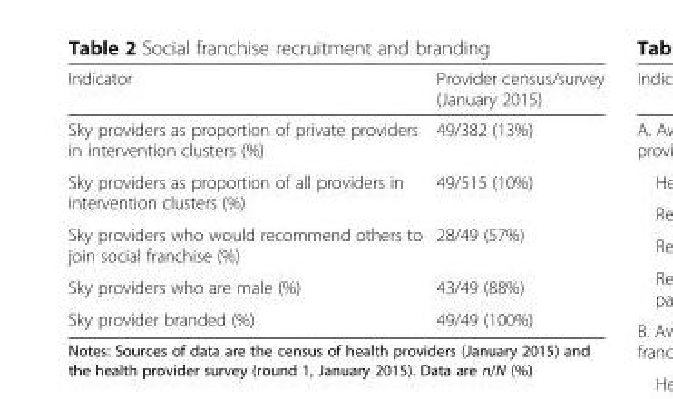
<table><thead><tr><td>Indicator</td><td>Provider census/survey (January 2015)</td></tr></thead><tbody><tr><td>Sky providers as proportion of private providers in intervention clusters (%)</td><td>49/382 (13%)</td></tr><tr><td>Sky providers as proportion of all providers in intervention clusters (%)</td><td>49/515 (10%)</td></tr><tr><td>Sky providers who would recommend others to join social franchise (%)</td><td>28/49 (57%)</td></tr><tr><td>Sky providers who are male (%)</td><td>43/49 (88%)</td></tr><tr><td>Sky provider branded (%)</td><td>49/49 (100%)</td></tr></tbody></table>